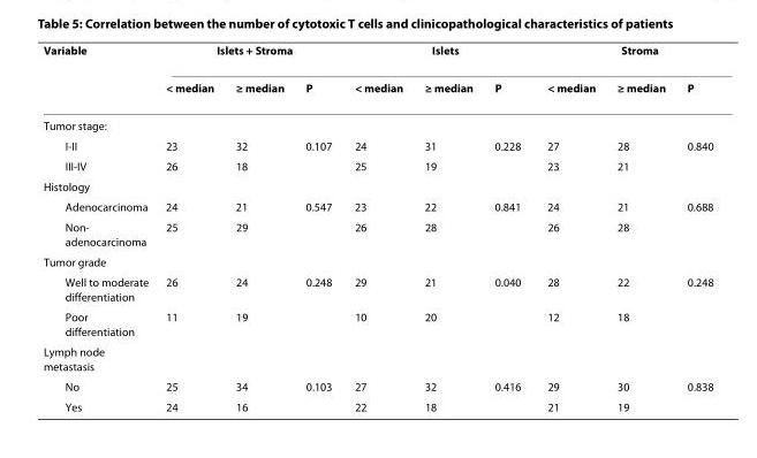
<table><thead><tr><td rowspan="2">Variable</td><td colspan="3">Islets + Stroma</td><td colspan="3">Islets</td><td colspan="3">Stroma</td></tr><tr><td>&lt; median</td><td>≥ median</td><td>P</td><td>&lt; median</td><td>≥ median</td><td>P</td><td>&lt; median</td><td>≥ median</td><td>P</td></tr></thead><tbody><tr><td colspan="10">Tumor stage:</td></tr><tr><td>I-II</td><td>23</td><td>32</td><td>0.107</td><td>24</td><td>31</td><td>0.228</td><td>27</td><td>28</td><td>0.840</td></tr><tr><td>III-IV</td><td>26</td><td>18</td><td></td><td>25</td><td>19</td><td></td><td>23</td><td>21</td><td></td></tr><tr><td colspan="10">Histology</td></tr><tr><td>Adenocarcinoma</td><td>24</td><td>21</td><td>0.547</td><td>23</td><td>22</td><td>0.841</td><td>24</td><td>21</td><td>0.688</td></tr><tr><td>Non- adenocarcinoma</td><td>25</td><td>29</td><td></td><td>26</td><td>28</td><td></td><td>26</td><td>28</td><td></td></tr><tr><td colspan="10">Tumor grade</td></tr><tr><td>Well to moderate differentiation</td><td>26</td><td>24</td><td>0.248</td><td>29</td><td>21</td><td>0.040</td><td>28</td><td>22</td><td>0.248</td></tr><tr><td>Poor differentiation</td><td>11</td><td>19</td><td></td><td>10</td><td>20</td><td></td><td>12</td><td>18</td><td></td></tr><tr><td colspan="10">Lymph node metastasis</td></tr><tr><td>No</td><td>25</td><td>34</td><td>0.103</td><td>27</td><td>32</td><td>0.416</td><td>29</td><td>30</td><td>0.838</td></tr><tr><td>Yes</td><td>24</td><td>16</td><td></td><td>22</td><td>18</td><td></td><td>21</td><td>19</td><td></td></tr></tbody></table>